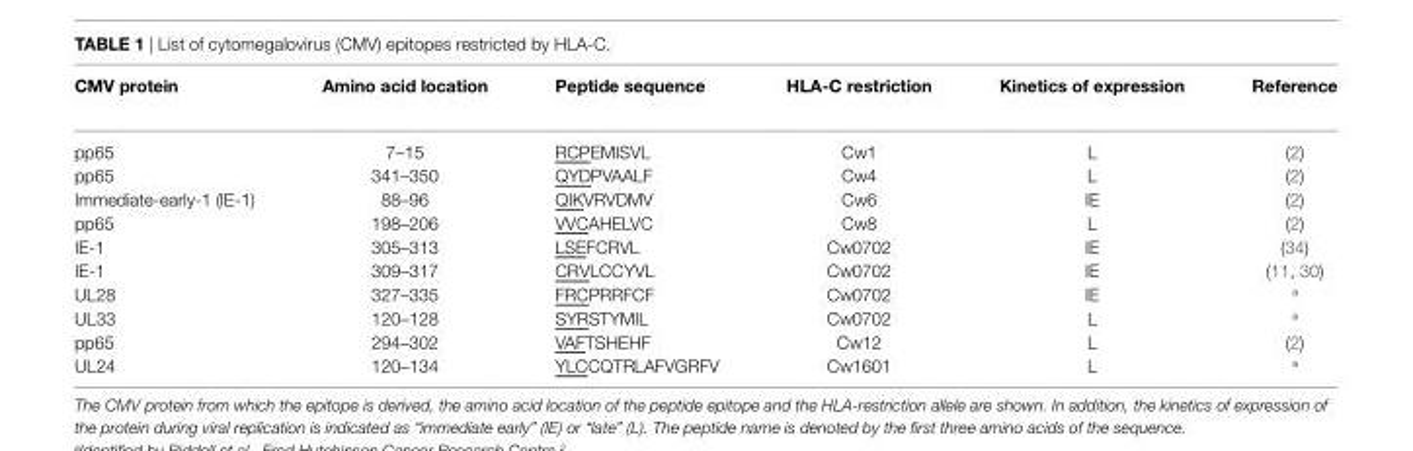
<table><thead><tr><td>cMV protein</td><td>amino acid location</td><td>Peptide sequence</td><td>hla-c restriction</td><td>Kinetics of expression</td><td>reference</td></tr></thead><tbody><tr><td>pp65</td><td>7–15</td><td>RCPEMISVL</td><td>Cw1</td><td>L</td><td>(2)</td></tr><tr><td>pp65</td><td>341–350</td><td>QYDPVAALF</td><td>Cw4</td><td>L</td><td>(2)</td></tr><tr><td>Immediate-early-1 (IE-1)</td><td>88–96</td><td>QIKVRVDMV</td><td>Cw6</td><td>IE</td><td>(2)</td></tr><tr><td>pp65</td><td>198–206</td><td>VVCAHELVC</td><td>Cw8</td><td>L</td><td>(2)</td></tr><tr><td>IE-1</td><td>305–313</td><td>LSEFCRVL</td><td>Cw0702</td><td>IE</td><td>(34)</td></tr><tr><td>IE-1</td><td>309–317</td><td>CRVLCCYVL</td><td>Cw0702</td><td>IE</td><td>(11, 30)</td></tr><tr><td>UL28</td><td>327–335</td><td>FRCPRRFCF</td><td>Cw0702</td><td>IE</td><td><sup>a</sup></td></tr><tr><td>UL33</td><td>120–128</td><td>SYRSTYMIL</td><td>Cw0702</td><td>L</td><td><sup>a</sup></td></tr><tr><td>pp65</td><td>294–302</td><td>VAFTSHEHF</td><td>Cw12</td><td>L</td><td>(2)</td></tr><tr><td>UL24</td><td>120–134</td><td>YLCCQTRLAFVGRFV</td><td>Cw1601</td><td>L</td><td><sup>a</sup></td></tr></tbody></table>